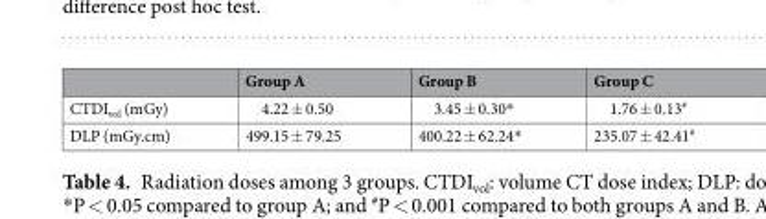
<table><thead><tr><td></td><td>Group A</td><td>Group B</td><td>Group C</td></tr></thead><tbody><tr><td>CTDI<sub>vol</sub> (mGy)</td><td>4.22 ± 0.50</td><td>3.45 ± 0.30*</td><td>1.76 ± 0.13<sup>#</sup></td></tr><tr><td>DLP (mGy.cm)</td><td>499.15 ± 79.25</td><td>400.22 ± 62.24*</td><td>235.07 ± 42.41<sup>#</sup></td></tr></tbody></table>